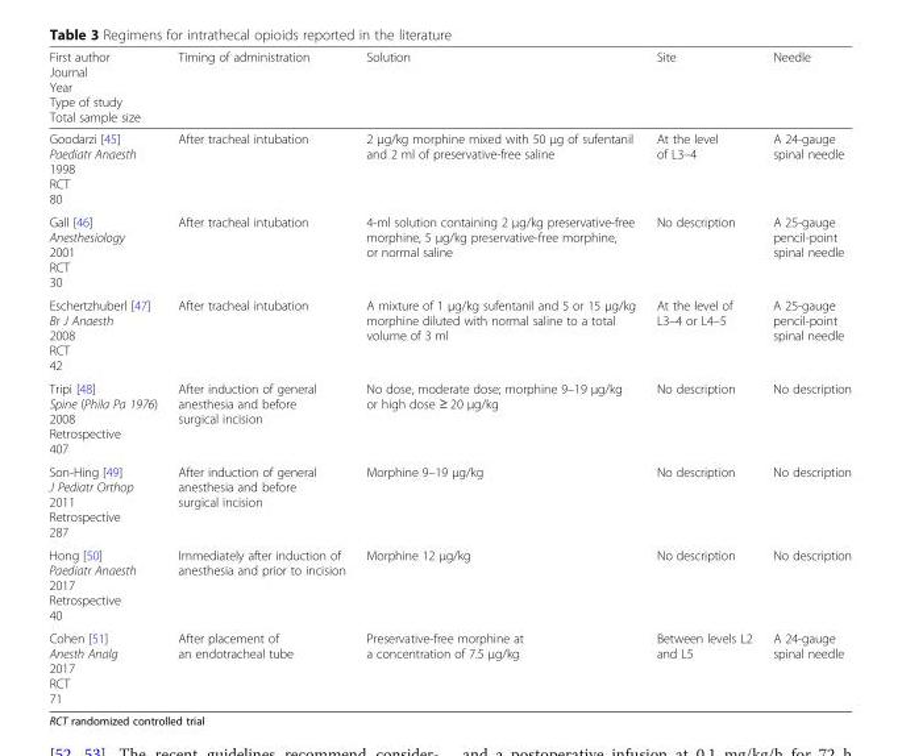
<table><thead><tr><td>First author Journal Year Type of study Total sample size</td><td>Timing of administration</td><td>Solution</td><td>Site</td><td>Needle</td></tr></thead><tbody><tr><td>Goodarzi [45] Paediatr Anaesth 1998 RCT 80</td><td>After tracheal intubation</td><td>2 μg/kg morphine mixed with 50 μg of sufentanil and 2 ml of preservative-free saline</td><td>At the level of L3–4</td><td>A 24-gauge spinal needle</td></tr><tr><td>Gall [46] Anesthesiology 2001 RCT 30</td><td>After tracheal intubation</td><td>4-ml solution containing 2 μg/kg preservative-free morphine, 5 μg/kg preservative-free morphine, or normal saline</td><td>No description</td><td>A 25-gauge pencil-point spinal needle</td></tr><tr><td>Eschertzhuberl [47] Br J Anaesth 2008 RCT 42</td><td>After tracheal intubation</td><td>A mixture of 1 μg/kg sufentanil and 5 or 15 μg/kg morphine diluted with normal saline to a total volume of 3 ml</td><td>At the level of L3–4 or L4–5</td><td>A 25-gauge pencil-point spinal needle</td></tr><tr><td>Tripi [48] Spine (Phila Pa 1976) 2008 Retrospective 407</td><td>After induction of general anesthesia and before surgical incision</td><td>No dose, moderate dose; morphine 9–19 μg/kg or high dose ≥ 20 μg/kg</td><td>No description</td><td>No description</td></tr><tr><td>Son-Hing [49] J Pediatr Orthop 2011 Retrospective 287</td><td>After induction of general anesthesia and before surgical incision</td><td>Morphine 9–19 μg/kg</td><td>No description</td><td>No description</td></tr><tr><td>Hong [50] Paediatr Anaesth 2017 Retrospective 40</td><td>Immediately after induction of anesthesia and prior to incision</td><td>Morphine 12 μg/kg</td><td>No description</td><td>No description</td></tr><tr><td>Cohen [51] Anesth Analg 2017 RCT 71</td><td>After placement of an endotracheal tube</td><td>Preservative-free morphine at a concentration of 7.5 μg/kg</td><td>Between levels L2 and L5</td><td>A 24-gauge spinal needle</td></tr></tbody></table>